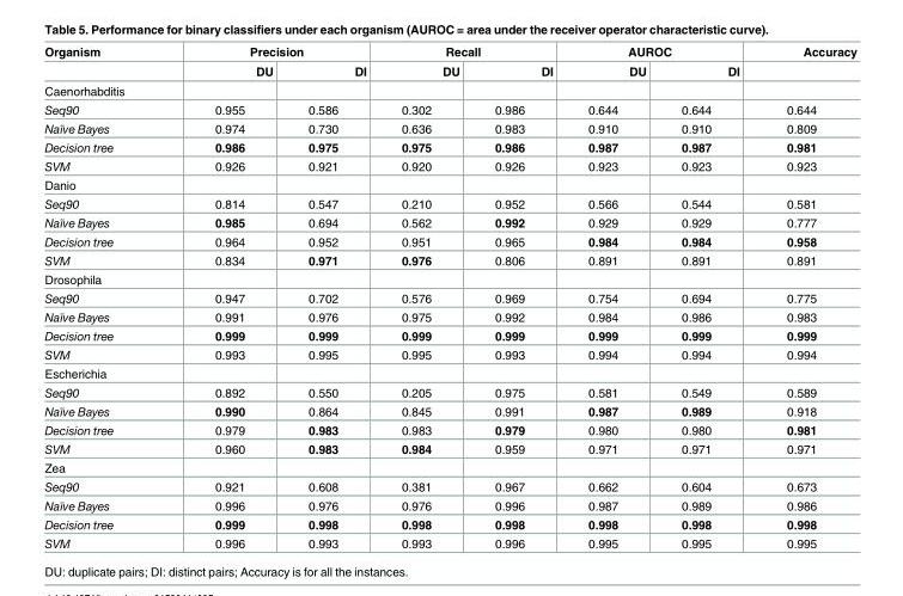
<table><thead><tr><td rowspan="2">Organism</td><td colspan="2">Precision</td><td colspan="2">Recall</td><td colspan="2">AUROC</td><td rowspan="2">Accuracy</td></tr><tr><td>DU</td><td>DI</td><td>DU</td><td>DI</td><td>DU</td><td>DI</td></tr></thead><tbody><tr><td colspan="8">Caenorhabditis</td></tr><tr><td>Seq90</td><td>0.955</td><td>0.586</td><td>0.302</td><td>0.986</td><td>0.644</td><td>0.644</td><td>0.644</td></tr><tr><td>Naïve Bayes</td><td>0.974</td><td>0.730</td><td>0.636</td><td>0.983</td><td>0.910</td><td>0.910</td><td>0.809</td></tr><tr><td>Decision tree</td><td>0.986</td><td>0.975</td><td>0.975</td><td>0.986</td><td>0.987</td><td>0.987</td><td>0.981</td></tr><tr><td>SVM</td><td>0.926</td><td>0.921</td><td>0.920</td><td>0.926</td><td>0.923</td><td>0.923</td><td>0.923</td></tr><tr><td colspan="8">Danio</td></tr><tr><td>Seq90</td><td>0.814</td><td>0.547</td><td>0.210</td><td>0.952</td><td>0.566</td><td>0.544</td><td>0.581</td></tr><tr><td>Naïve Bayes</td><td>0.985</td><td>0.694</td><td>0.562</td><td>0.992</td><td>0.929</td><td>0.929</td><td>0.777</td></tr><tr><td>Decision tree</td><td>0.964</td><td>0.952</td><td>0.951</td><td>0.965</td><td>0.984</td><td>0.984</td><td>0.958</td></tr><tr><td>SVM</td><td>0.834</td><td>0.971</td><td>0.976</td><td>0.806</td><td>0.891</td><td>0.891</td><td>0.891</td></tr><tr><td colspan="8">Drosophila</td></tr><tr><td>Seq90</td><td>0.947</td><td>0.702</td><td>0.576</td><td>0.969</td><td>0.754</td><td>0.694</td><td>0.775</td></tr><tr><td>Naïve Bayes</td><td>0.991</td><td>0.976</td><td>0.975</td><td>0.992</td><td>0.984</td><td>0.986</td><td>0.983</td></tr><tr><td>Decision tree</td><td>0.999</td><td>0.999</td><td>0.999</td><td>0.999</td><td>0.999</td><td>0.999</td><td>0.999</td></tr><tr><td>SVM</td><td>0.993</td><td>0.995</td><td>0.995</td><td>0.993</td><td>0.994</td><td>0.994</td><td>0.994</td></tr><tr><td colspan="8">Escherichia</td></tr><tr><td>Seq90</td><td>0.892</td><td>0.550</td><td>0.205</td><td>0.975</td><td>0.581</td><td>0.549</td><td>0.589</td></tr><tr><td>Naïve Bayes</td><td>0.990</td><td>0.864</td><td>0.845</td><td>0.991</td><td>0.987</td><td>0.989</td><td>0.918</td></tr><tr><td>Decision tree</td><td>0.979</td><td>0.983</td><td>0.983</td><td>0.979</td><td>0.980</td><td>0.980</td><td>0.981</td></tr><tr><td>SVM</td><td>0.960</td><td>0.983</td><td>0.984</td><td>0.959</td><td>0.971</td><td>0.971</td><td>0.971</td></tr><tr><td colspan="8">Zea</td></tr><tr><td>Seq90</td><td>0.921</td><td>0.608</td><td>0.381</td><td>0.967</td><td>0.662</td><td>0.604</td><td>0.673</td></tr><tr><td>Naïve Bayes</td><td>0.996</td><td>0.976</td><td>0.976</td><td>0.996</td><td>0.987</td><td>0.989</td><td>0.986</td></tr><tr><td>Decision tree</td><td>0.999</td><td>0.998</td><td>0.998</td><td>0.998</td><td>0.998</td><td>0.998</td><td>0.998</td></tr><tr><td>SVM</td><td>0.996</td><td>0.993</td><td>0.993</td><td>0.996</td><td>0.995</td><td>0.995</td><td>0.995</td></tr></tbody></table>